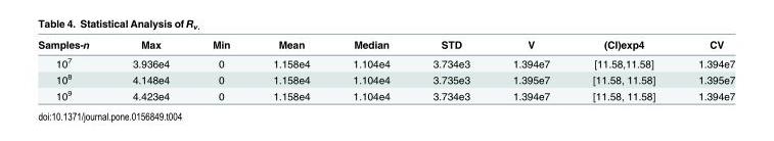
<table><thead><tr><td>Samples-n</td><td>Max</td><td>Min</td><td>Mean</td><td>Median</td><td>STD</td><td>V</td><td>(CI)exp4</td><td>CV</td></tr></thead><tbody><tr><td>10<sup>7</sup></td><td>3.936e4</td><td>0</td><td>1.158e4</td><td>1.104e4</td><td>3.734e3</td><td>1.394e7</td><td>[11.58,11.58]</td><td>1.394e7</td></tr><tr><td>10<sup>8</sup></td><td>4.148e4</td><td>0</td><td>1.158e4</td><td>1.104e4</td><td>3.735e3</td><td>1.395e7</td><td>[11.58, 11.58]</td><td>1.395e7</td></tr><tr><td>10<sup>9</sup></td><td>4.423e4</td><td>0</td><td>1.158e4</td><td>1.104e4</td><td>3.734e3</td><td>1.394e7</td><td>[11.58, 11.58]</td><td>1.394e7</td></tr></tbody></table>